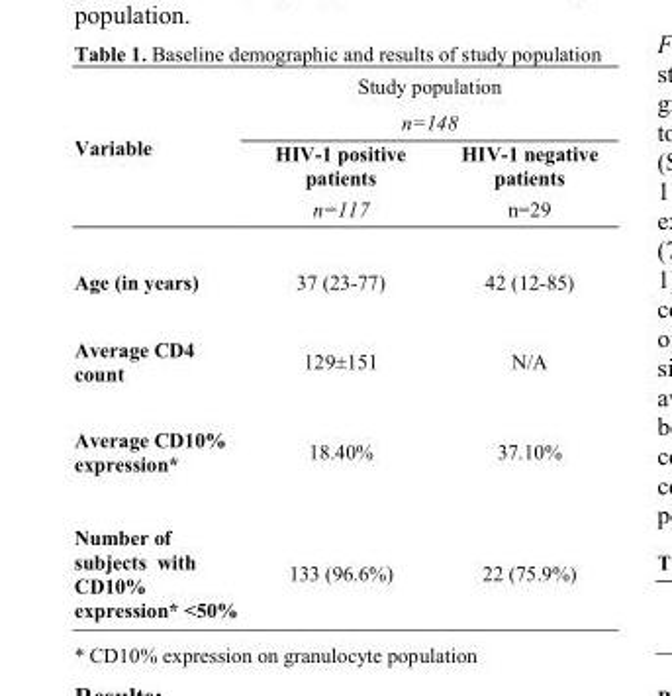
<table><thead><tr><td rowspan="2">Variable</td><td colspan="2">Study population n=148</td></tr><tr><td>HIV-1 positive patients n=117</td><td>HIV-1 negative patients n=29</td></tr></thead><tbody><tr><td>Age (in years)</td><td>37 (23-77)</td><td>42 (12-85)</td></tr><tr><td>Average CD4 count</td><td>129±151</td><td>N/A</td></tr><tr><td>Average CD10% expression*</td><td>18.40%</td><td>37.10%</td></tr><tr><td>Number of subjects with CD10% expression* &lt;50%</td><td>133 (96.6%)</td><td>22 (75.9%)</td></tr></tbody></table>